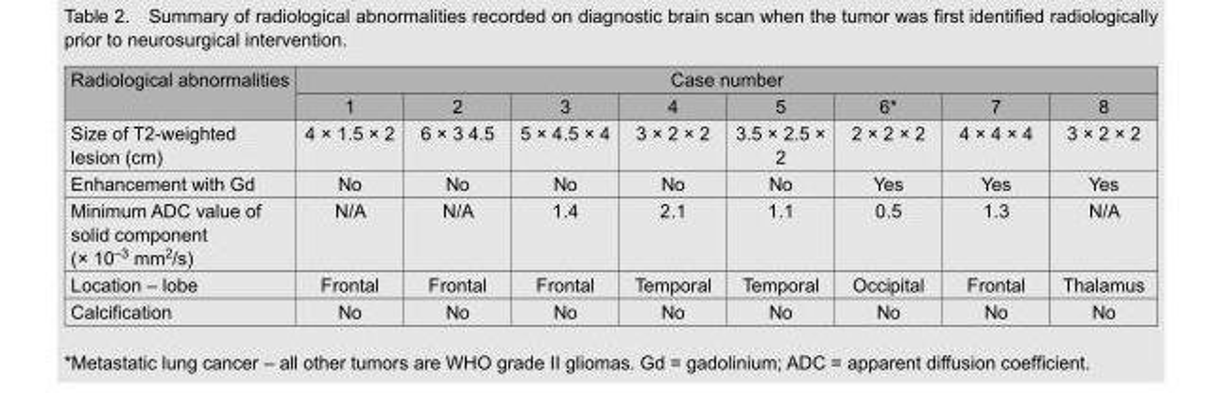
<table><thead><tr><td rowspan="2">Radiological abnormalities</td><td colspan="8">Case number</td></tr><tr><td>1</td><td>2</td><td>3</td><td>4</td><td>5</td><td>6*</td><td>7</td><td>8</td></tr></thead><tbody><tr><td>Size of T2-weighted lesion (cm)</td><td>4 × 1.5 × 2</td><td>6 × 3 4.5</td><td>5 × 4.5 × 4</td><td>3 × 2 × 2</td><td>3.5 × 2.5 × 2</td><td>2 × 2 × 2</td><td>4 × 4 × 4</td><td>3 × 2 × 2</td></tr><tr><td>Enhancement with Gd</td><td>No</td><td>No</td><td>No</td><td>No</td><td>No</td><td>Yes</td><td>Yes</td><td>Yes</td></tr><tr><td>Minimum ADC value of solid component (× 10<sup>–3</sup> mm<sup>2</sup>/s)</td><td>N/A</td><td>N/A</td><td>1.4</td><td>2.1</td><td>1.1</td><td>0.5</td><td>1.3</td><td>N/A</td></tr><tr><td>Location – lobe</td><td>Frontal</td><td>Frontal</td><td>Frontal</td><td>Temporal</td><td>Temporal</td><td>Occipital</td><td>Frontal</td><td>Thalamus</td></tr><tr><td>Calcification</td><td>No</td><td>No</td><td>No</td><td>No</td><td>No</td><td>No</td><td>No</td><td>No</td></tr></tbody></table>